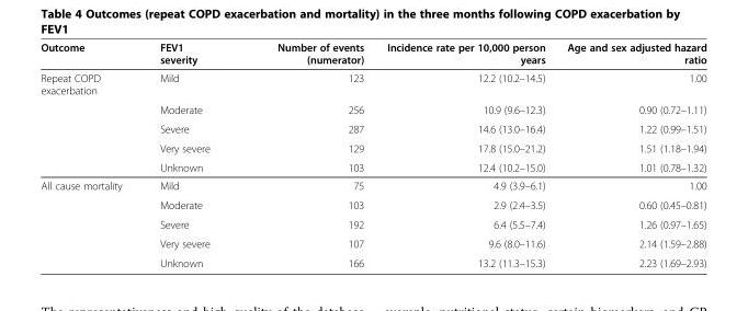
<table><thead><tr><td>Outcome</td><td>FEV1 severity</td><td>Number of events (numerator)</td><td>Incidence rate per 10,000 person years</td><td>Age and sex adjusted hazard ratio</td></tr></thead><tbody><tr><td rowspan="5">Repeat COPD exacerbation</td><td>Mild</td><td>123</td><td>12.2 (10.2–14.5)</td><td>1.00</td></tr><tr><td>Moderate</td><td>256</td><td>10.9 (9.6–12.3)</td><td>0.90 (0.72–1.11)</td></tr><tr><td>Severe</td><td>287</td><td>14.6 (13.0–16.4)</td><td>1.22 (0.99–1.51)</td></tr><tr><td>Very severe</td><td>129</td><td>17.8 (15.0–21.2)</td><td>1.51 (1.18–1.94)</td></tr><tr><td>Unknown</td><td>103</td><td>12.4 (10.2–15.0)</td><td>1.01 (0.78–1.32)</td></tr><tr><td rowspan="5">All cause mortality</td><td>Mild</td><td>75</td><td>4.9 (3.9–6.1)</td><td>1.00</td></tr><tr><td>Moderate</td><td>103</td><td>2.9 (2.4–3.5)</td><td>0.60 (0.45–0.81)</td></tr><tr><td>Severe</td><td>192</td><td>6.4 (5.5–7.4)</td><td>1.26 (0.97–1.65)</td></tr><tr><td>Very severe</td><td>107</td><td>9.6 (8.0–11.6)</td><td>2.14 (1.59–2.88)</td></tr><tr><td>Unknown</td><td>166</td><td>13.2 (11.3–15.3)</td><td>2.23 (1.69–2.93)</td></tr></tbody></table>